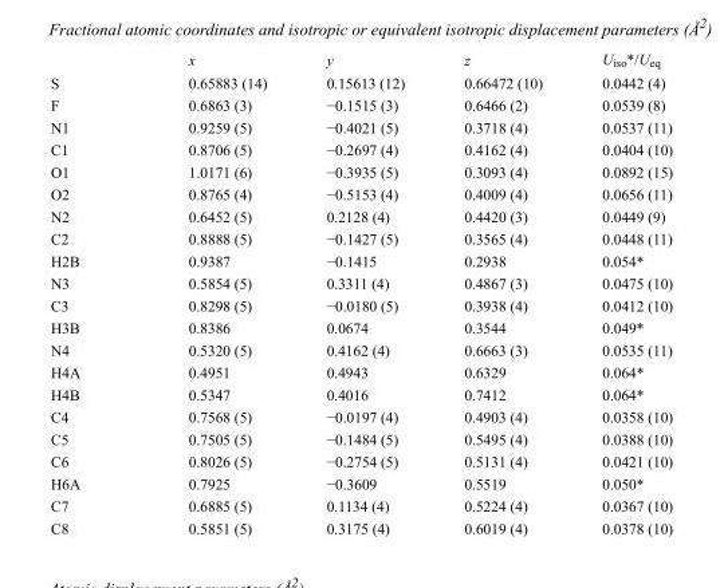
<table><thead><tr><td></td><td>x</td><td>y</td><td>z</td><td>U<sub>iso</sub>*/U<sub>eq</sub></td></tr></thead><tbody><tr><td>S</td><td>0.65883 (14)</td><td>0.15613 (12)</td><td>0.66472 (10)</td><td>0.0442 (4)</td></tr><tr><td>F</td><td>0.6863 (3)</td><td>−0.1515 (3)</td><td>0.6466 (2)</td><td>0.0539 (8)</td></tr><tr><td>N1</td><td>0.9259 (5)</td><td>−0.4021 (5)</td><td>0.3718 (4)</td><td>0.0537 (11)</td></tr><tr><td>C1</td><td>0.8706 (5)</td><td>−0.2697 (4)</td><td>0.4162 (4)</td><td>0.0404 (10)</td></tr><tr><td>O1</td><td>1.0171 (6)</td><td>−0.3935 (5)</td><td>0.3093 (4)</td><td>0.0892 (15)</td></tr><tr><td>O2</td><td>0.8765 (4)</td><td>−0.5153 (4)</td><td>0.4009 (4)</td><td>0.0656 (11)</td></tr><tr><td>N2</td><td>0.6452 (5)</td><td>0.2128 (4)</td><td>0.4420 (3)</td><td>0.0449 (9)</td></tr><tr><td>C2</td><td>0.8888 (5)</td><td>−0.1427 (5)</td><td>0.3565 (4)</td><td>0.0448 (11)</td></tr><tr><td>H2B</td><td>0.9387</td><td>−0.1415</td><td>0.2938</td><td>0.054*</td></tr><tr><td>N3</td><td>0.5854 (5)</td><td>0.3311 (4)</td><td>0.4867 (3)</td><td>0.0475 (10)</td></tr><tr><td>C3</td><td>0.8298 (5)</td><td>−0.0180 (5)</td><td>0.3938 (4)</td><td>0.0412 (10)</td></tr><tr><td>H3B</td><td>0.8386</td><td>0.0674</td><td>0.3544</td><td>0.049*</td></tr><tr><td>N4</td><td>0.5320 (5)</td><td>0.4162 (4)</td><td>0.6663 (3)</td><td>0.0535 (11)</td></tr><tr><td>H4A</td><td>0.4951</td><td>0.4943</td><td>0.6329</td><td>0.064*</td></tr><tr><td>H4B</td><td>0.5347</td><td>0.4016</td><td>0.7412</td><td>0.064*</td></tr><tr><td>C4</td><td>0.7568 (5)</td><td>−0.0197 (4)</td><td>0.4903 (4)</td><td>0.0358 (10)</td></tr><tr><td>C5</td><td>0.7505 (5)</td><td>−0.1484 (5)</td><td>0.5495 (4)</td><td>0.0388 (10)</td></tr><tr><td>C6</td><td>0.8026 (5)</td><td>−0.2754 (5)</td><td>0.5131 (4)</td><td>0.0421 (10)</td></tr><tr><td>H6A</td><td>0.7925</td><td>−0.3609</td><td>0.5519</td><td>0.050*</td></tr><tr><td>C7</td><td>0.6885 (5)</td><td>0.1134 (4)</td><td>0.5224 (4)</td><td>0.0367 (10)</td></tr><tr><td>C8</td><td>0.5851 (5)</td><td>0.3175 (4)</td><td>0.6019 (4)</td><td>0.0378 (10)</td></tr></tbody></table>